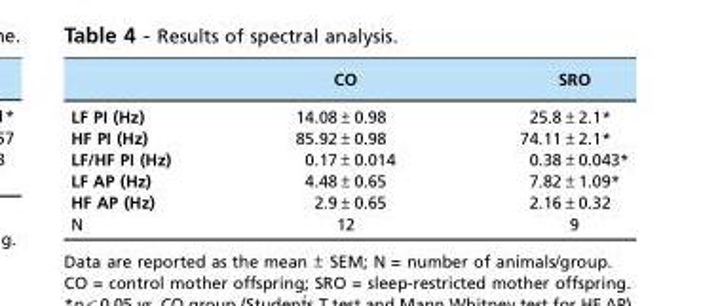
<table><thead><tr><td></td><td>CO</td><td>SRO</td></tr></thead><tbody><tr><td>LF PI (Hz)</td><td>14.08±0.98</td><td>25.8±2.1*</td></tr><tr><td>HF PI (Hz)</td><td>85.92±0.98</td><td>74.11±2.1*</td></tr><tr><td>LF/HF PI (Hz)</td><td>0.17±0.014</td><td>0.38±0.043*</td></tr><tr><td>LF AP (Hz)</td><td>4.48±0.65</td><td>7.82±1.09*</td></tr><tr><td>HF AP (Hz)</td><td>2.9±0.65</td><td>2.16±0.32</td></tr><tr><td>N</td><td>12</td><td>9</td></tr></tbody></table>